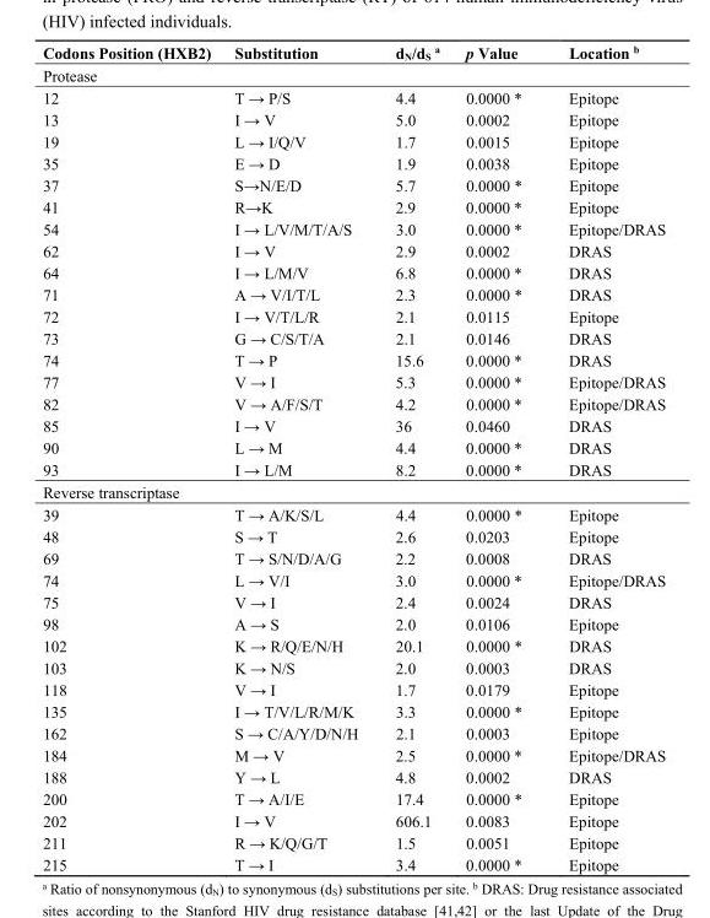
<table><thead><tr><td>Codons Position (HXB2)</td><td>Substitution</td><td>d<sub>N</sub>/d<sub>S</sub> <sup>a</sup></td><td>p Value</td><td>Location <sup>b</sup></td></tr></thead><tbody><tr><td colspan="5">Protease</td></tr><tr><td>12</td><td>T → P/S</td><td>4.4</td><td>0.0000 *</td><td>Epitope</td></tr><tr><td>13</td><td>I → V</td><td>5.0</td><td>0.0002</td><td>Epitope</td></tr><tr><td>19</td><td>L → I/Q/V</td><td>1.7</td><td>0.0015</td><td>Epitope</td></tr><tr><td>35</td><td>E → D</td><td>1.9</td><td>0.0038</td><td>Epitope</td></tr><tr><td>37</td><td>S→N/E/D</td><td>5.7</td><td>0.0000 *</td><td>Epitope</td></tr><tr><td>41</td><td>R→K</td><td>2.9</td><td>0.0000 *</td><td>Epitope</td></tr><tr><td>54</td><td>I → L/V/M/T/A/S</td><td>3.0</td><td>0.0000 *</td><td>Epitope/DRAS</td></tr><tr><td>62</td><td>I → V</td><td>2.9</td><td>0.0002</td><td>DRAS</td></tr><tr><td>64</td><td>I → L/M/V</td><td>6.8</td><td>0.0000 *</td><td>DRAS</td></tr><tr><td>71</td><td>A → V/I/T/L</td><td>2.3</td><td>0.0000 *</td><td>DRAS</td></tr><tr><td>72</td><td>I → V/T/L/R</td><td>2.1</td><td>0.0115</td><td>Epitope</td></tr><tr><td>73</td><td>G → C/S/T/A</td><td>2.1</td><td>0.0146</td><td>DRAS</td></tr><tr><td>74</td><td>T → P</td><td>15.6</td><td>0.0000 *</td><td>DRAS</td></tr><tr><td>77</td><td>V → I</td><td>5.3</td><td>0.0000 *</td><td>Epitope/DRAS</td></tr><tr><td>82</td><td>V → A/F/S/T</td><td>4.2</td><td>0.0000 *</td><td>Epitope/DRAS</td></tr><tr><td>85</td><td>I → V</td><td>36</td><td>0.0460</td><td>DRAS</td></tr><tr><td>90</td><td>L → M</td><td>4.4</td><td>0.0000 *</td><td>DRAS</td></tr><tr><td>93</td><td>I → L/M</td><td>8.2</td><td>0.0000 *</td><td>DRAS</td></tr><tr><td colspan="5">Reverse transcriptase</td></tr><tr><td>39</td><td>T → A/K/S/L</td><td>4.4</td><td>0.0000 *</td><td>Epitope</td></tr><tr><td>48</td><td>S → T</td><td>2.6</td><td>0.0203</td><td>Epitope</td></tr><tr><td>69</td><td>T → S/N/D/A/G</td><td>2.2</td><td>0.0008</td><td>DRAS</td></tr><tr><td>74</td><td>L → V/I</td><td>3.0</td><td>0.0000 *</td><td>Epitope/DRAS</td></tr><tr><td>75</td><td>V → I</td><td>2.4</td><td>0.0024</td><td>DRAS</td></tr><tr><td>98</td><td>A → S</td><td>2.0</td><td>0.0106</td><td>Epitope</td></tr><tr><td>102</td><td>K → R/Q/E/N/H</td><td>20.1</td><td>0.0000 *</td><td>DRAS</td></tr><tr><td>103</td><td>K → N/S</td><td>2.0</td><td>0.0003</td><td>DRAS</td></tr><tr><td>118</td><td>V → I</td><td>1.7</td><td>0.0179</td><td>Epitope</td></tr><tr><td>135</td><td>I → T/V/L/R/M/K</td><td>3.3</td><td>0.0000 *</td><td>Epitope</td></tr><tr><td>162</td><td>S → C/A/Y/D/N/H</td><td>2.1</td><td>0.0003</td><td>Epitope</td></tr><tr><td>184</td><td>M → V</td><td>2.5</td><td>0.0000 *</td><td>Epitope/DRAS</td></tr><tr><td>188</td><td>Y → L</td><td>4.8</td><td>0.0002</td><td>DRAS</td></tr><tr><td>200</td><td>T → A/I/E</td><td>17.4</td><td>0.0000 *</td><td>Epitope</td></tr><tr><td>202</td><td>I → V</td><td>606.1</td><td>0.0083</td><td>Epitope</td></tr><tr><td>211</td><td>R → K/Q/G/T</td><td>1.5</td><td>0.0051</td><td>Epitope</td></tr><tr><td>215</td><td>T → I</td><td>3.4</td><td>0.0000 *</td><td>Epitope</td></tr></tbody></table>